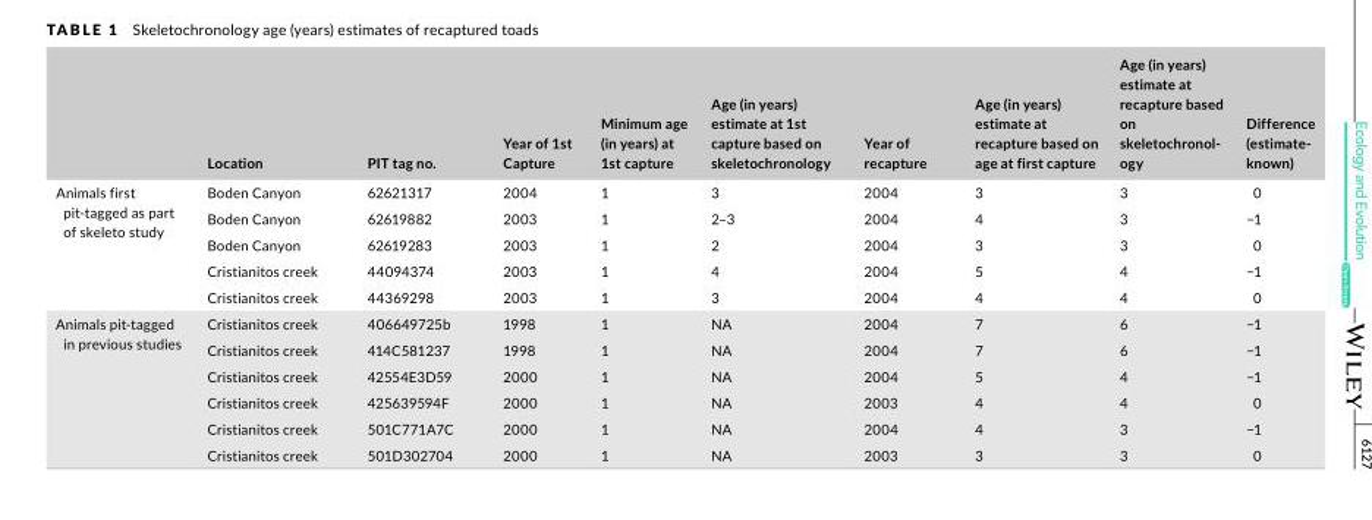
<table><thead><tr><td></td><td>Location</td><td>PIT tag no.</td><td>Year of 1st Capture</td><td>Minimum age (in years) at 1st capture</td><td>Age (in years) estimate at 1st capture based on skeletochronology</td><td>Year of recapture</td><td>Age (in years) estimate at recapture based on age at first capture</td><td>Age (in years) estimate at recapture based on skeletochronol- ogy</td><td>Difference (estimate- known)</td></tr></thead><tbody><tr><td rowspan="5">Animals first pit- tagged as part of skeleto study</td><td>Boden Canyon</td><td>62621317</td><td>2004</td><td>1</td><td>3</td><td>2004</td><td>3</td><td>3</td><td>0</td></tr><tr><td>Boden Canyon</td><td>62619882</td><td>2003</td><td>1</td><td>2–3</td><td>2004</td><td>4</td><td>3</td><td>−1</td></tr><tr><td>Boden Canyon</td><td>62619283</td><td>2003</td><td>1</td><td>2</td><td>2004</td><td>3</td><td>3</td><td>0</td></tr><tr><td>Cristianitos creek</td><td>44094374</td><td>2003</td><td>1</td><td>4</td><td>2004</td><td>5</td><td>4</td><td>−1</td></tr><tr><td>Cristianitos creek</td><td>44369298</td><td>2003</td><td>1</td><td>3</td><td>2004</td><td>4</td><td>4</td><td>0</td></tr><tr><td rowspan="6">Animals pit- tagged in previous studies</td><td>Cristianitos creek</td><td>406649725b</td><td>1998</td><td>1</td><td>NA</td><td>2004</td><td>7</td><td>6</td><td>−1</td></tr><tr><td>Cristianitos creek</td><td>414C581237</td><td>1998</td><td>1</td><td>NA</td><td>2004</td><td>7</td><td>6</td><td>−1</td></tr><tr><td>Cristianitos creek</td><td>42554E3D59</td><td>2000</td><td>1</td><td>NA</td><td>2004</td><td>5</td><td>4</td><td>−1</td></tr><tr><td>Cristianitos creek</td><td>425639594F</td><td>2000</td><td>1</td><td>NA</td><td>2003</td><td>4</td><td>4</td><td>0</td></tr><tr><td>Cristianitos creek</td><td>501C771A7C</td><td>2000</td><td>1</td><td>NA</td><td>2004</td><td>4</td><td>3</td><td>−1</td></tr><tr><td>Cristianitos creek</td><td>501D302704</td><td>2000</td><td>1</td><td>NA</td><td>2003</td><td>3</td><td>3</td><td>0</td></tr></tbody></table>